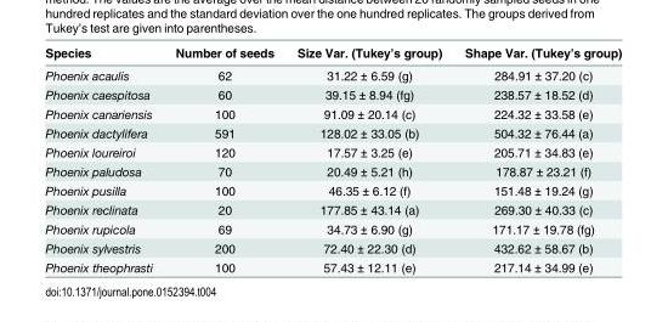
<table><thead><tr><td>Species</td><td>Number of seeds</td><td>Size Var. (Tukey’s group)</td><td>Shape Var. (Tukey’s group)</td></tr></thead><tbody><tr><td>Phoenix acaulis</td><td>62</td><td>31.22 ± 6.59 (g)</td><td>284.91 ± 37.20 (c)</td></tr><tr><td>Phoenix caespitosa</td><td>60</td><td>39.15 ± 8.94 (fg)</td><td>238.57 ± 18.52 (d)</td></tr><tr><td>Phoenix canariensis</td><td>100</td><td>91.09 ± 20.14 (c)</td><td>224.32 ± 33.58 (e)</td></tr><tr><td>Phoenix dactylifera</td><td>591</td><td>128.02 ± 33.05 (b)</td><td>504.32 ± 76.44 (a)</td></tr><tr><td>Phoenix loureiroi</td><td>120</td><td>17.57 ± 3.25 (e)</td><td>205.71 ± 34.83 (e)</td></tr><tr><td>Phoenix paludosa</td><td>70</td><td>20.49 ± 5.21 (h)</td><td>178.87 ± 23.21 (f)</td></tr><tr><td>Phoenix pusilla</td><td>100</td><td>46.35 ± 6.12 (f)</td><td>151.48 ± 19.24 (g)</td></tr><tr><td>Phoenix reclinata</td><td>20</td><td>177.85 ± 43.14 (a)</td><td>269.30 ± 40.33 (c)</td></tr><tr><td>Phoenix rupicola</td><td>69</td><td>34.73 ± 6.90 (g)</td><td>171.17 ± 19.78 (fg)</td></tr><tr><td>Phoenix sylvestris</td><td>200</td><td>72.40 ± 22.30 (d)</td><td>432.62 ± 58.67 (b)</td></tr><tr><td>Phoenix theophrasti</td><td>100</td><td>57.43 ± 12.11 (e)</td><td>217.14 ± 34.99 (e)</td></tr></tbody></table>